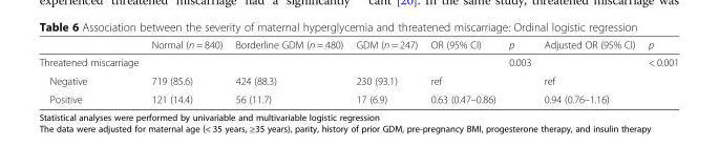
<table><thead><tr><td></td><td>Normal (n = 840)</td><td>Borderline GDM (n = 480)</td><td>GDM (n = 247)</td><td>OR (95% CI)</td><td>p</td><td>Adjusted OR (95% CI)</td><td>p</td></tr></thead><tbody><tr><td>Threatened miscarriage</td><td></td><td></td><td></td><td></td><td>0.003</td><td></td><td>&lt; 0.001</td></tr><tr><td>Negative</td><td>719 (85.6)</td><td>424 (88.3)</td><td>230 (93.1)</td><td>ref</td><td></td><td>ref</td><td></td></tr><tr><td>Positive</td><td>121 (14.4)</td><td>56 (11.7)</td><td>17 (6.9)</td><td>0.63 (0.47–0.86)</td><td></td><td>0.94 (0.76–1.16)</td><td></td></tr></tbody></table>